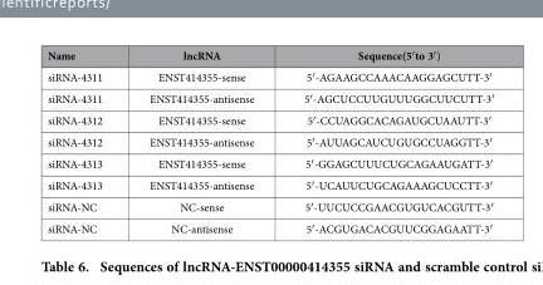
<table><thead><tr><td>Name</td><td>lncRNA</td><td>Sequence(5′ to 3′ )</td></tr></thead><tbody><tr><td>siRNA-4311</td><td>ENST414355-sense</td><td>5′ -AGAAGCCAAACAAGGAGCUTT-3′</td></tr><tr><td>siRNA-4311</td><td>ENST414355-antisense</td><td>5′ -AGCUCCUUGUUUGGCUUCUTT-3′</td></tr><tr><td>siRNA-4312</td><td>ENST414355-sense</td><td>5′ -CCUAGGCACAGAUGCUAAUTT-3′</td></tr><tr><td>siRNA-4312</td><td>ENST414355-antisense</td><td>5′ -AUUAGCAUCUGUGCCUAGGTT-3′</td></tr><tr><td>siRNA-4313</td><td>ENST414355-sense</td><td>5′ -GGAGCUUUCUGCAGAAUGATT-3′</td></tr><tr><td>siRNA-4313</td><td>ENST414355-antisense</td><td>5′ -UCAUUCUGCAGAAAGCUCCTT-3′</td></tr><tr><td>siRNA-NC</td><td>NC-sense</td><td>5′ -UUCUCCGAACGUGUCACGUTT-3′</td></tr><tr><td>siRNA-NC</td><td>NC-antisense</td><td>5′ -ACGUGACACGUUCGGAGAATT-3′</td></tr></tbody></table>